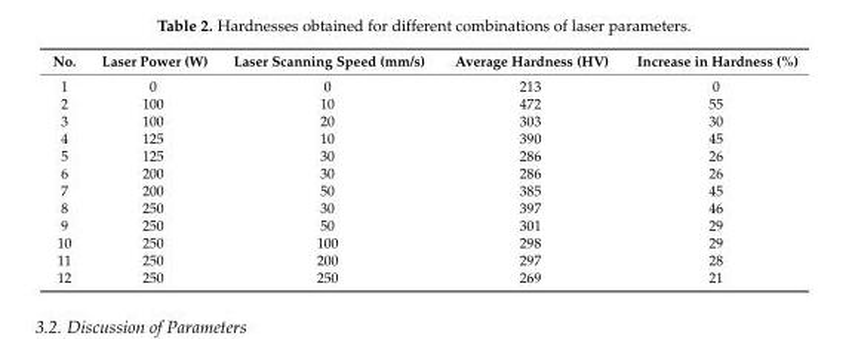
<table><thead><tr><td>No.</td><td>Laser Power (W)</td><td>Laser Scanning Speed (mm/s)</td><td>Average Hardness (HV)</td><td>Increase in Hardness (%)</td></tr></thead><tbody><tr><td>1</td><td>0</td><td>0</td><td>213</td><td>0</td></tr><tr><td>2</td><td>100</td><td>10</td><td>472</td><td>55</td></tr><tr><td>3</td><td>100</td><td>20</td><td>303</td><td>30</td></tr><tr><td>4</td><td>125</td><td>10</td><td>390</td><td>45</td></tr><tr><td>5</td><td>125</td><td>30</td><td>286</td><td>26</td></tr><tr><td>6</td><td>200</td><td>30</td><td>286</td><td>26</td></tr><tr><td>7</td><td>200</td><td>50</td><td>385</td><td>45</td></tr><tr><td>8</td><td>250</td><td>30</td><td>397</td><td>46</td></tr><tr><td>9</td><td>250</td><td>50</td><td>301</td><td>29</td></tr><tr><td>10</td><td>250</td><td>100</td><td>298</td><td>29</td></tr><tr><td>11</td><td>250</td><td>200</td><td>297</td><td>28</td></tr><tr><td>12</td><td>250</td><td>250</td><td>269</td><td>21</td></tr></tbody></table>